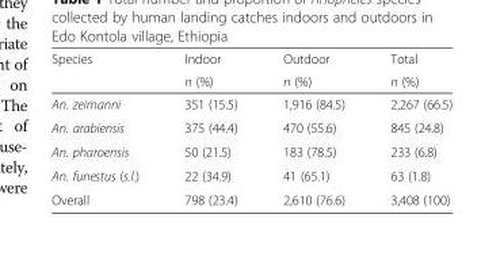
<table><thead><tr><td rowspan="2">Species</td><td rowspan="2">Indoor n (%)</td><td rowspan="2">Outdoor n (%)</td><td rowspan="2">Total n (%)</td></tr><tr></tr></thead><tbody><tr><td>An. zeimanni</td><td>351 (15.5)</td><td>1,916 (84.5)</td><td>2,267 (66.5)</td></tr><tr><td>An. arabiensis</td><td>375 (44.4)</td><td>470 (55.6)</td><td>845 (24.8)</td></tr><tr><td>An. pharoensis</td><td>50 (21.5)</td><td>183 (78.5)</td><td>233 (6.8)</td></tr><tr><td>An. funestus (s.l.)</td><td>22 (34.9)</td><td>41 (65.1)</td><td>63 (1.8)</td></tr><tr><td>Overall</td><td>798 (23.4)</td><td>2,610 (76.6)</td><td>3,408 (100)</td></tr></tbody></table>